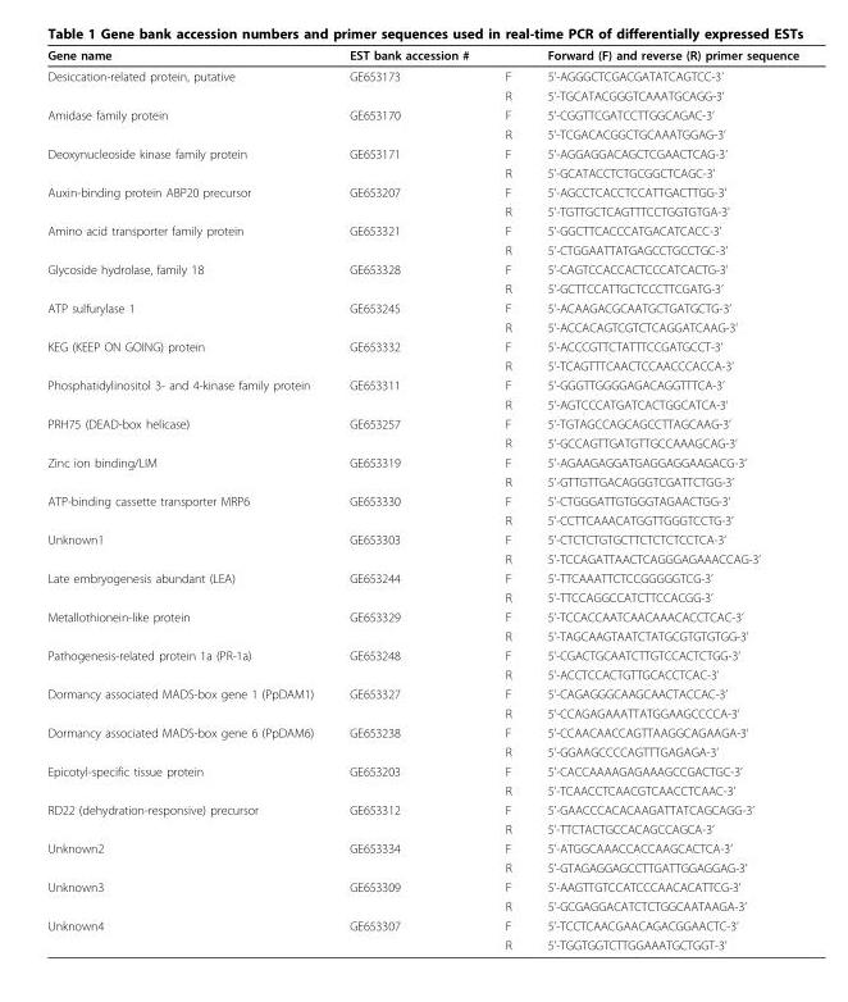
<table><thead><tr><td>Gene name</td><td>EST bank accession #</td><td></td><td>Forward (F) and reverse (R) primer sequence</td></tr></thead><tbody><tr><td rowspan="2">Desiccation-related protein, putative</td><td>GE653173</td><td>F</td><td>5’-AGGGCTCGACGATATCAGTCC-3’</td></tr><tr><td></td><td>R</td><td>5’-TGCATACGGGTCAAATGCAGG-3’</td></tr><tr><td rowspan="2">Amidase family protein</td><td>GE653170</td><td>F</td><td>5’-CGGTTCGATCCTTGGCAGAC-3’</td></tr><tr><td></td><td>R</td><td>5’-TCGACACGGCTGCAAATGGAG-3’</td></tr><tr><td rowspan="2">Deoxynucleoside kinase family protein</td><td>GE653171</td><td>F</td><td>5’-AGGAGGACAGCTCGAACTCAG-3’</td></tr><tr><td></td><td>R</td><td>5’-GCATACCTCTGCGGCTCAGC-3’</td></tr><tr><td rowspan="2">Auxin-binding protein ABP20 precursor</td><td>GE653207</td><td>F</td><td>5’-AGCCTCACCTCCATTGACTTGG-3’</td></tr><tr><td></td><td>R</td><td>5’-TGTTGCTCAGTTTCCTGGTGTGA-3’</td></tr><tr><td rowspan="2">Amino acid transporter family protein</td><td>GE653321</td><td>F</td><td>5’-GGCTTCACCCATGACATCACC-3’</td></tr><tr><td></td><td>R</td><td>5’-CTGGAATTATGAGCCTGCCTGC-3’</td></tr><tr><td rowspan="2">Glycoside hydrolase, family 18</td><td>GE653328</td><td>F</td><td>5’-CAGTCCACCACTCCCATCACTG-3’</td></tr><tr><td></td><td>R</td><td>5’-GCTTCCATTGCTCCCTTCGATG-3’</td></tr><tr><td rowspan="2">ATP sulfurylase 1</td><td>GE653245</td><td>F</td><td>5’-ACAAGACGCAATGCTGATGCTG-3’</td></tr><tr><td></td><td>R</td><td>5’-ACCACAGTCGTCTCAGGATCAAG-3’</td></tr><tr><td rowspan="2">KEG (KEEP ON GOING) protein</td><td>GE653332</td><td>F</td><td>5’-ACCCGTTCTATTTCCGATGCCT-3’</td></tr><tr><td></td><td>R</td><td>5’-TCAGTTTCAACTCCAACCCACCA-3’</td></tr><tr><td rowspan="2">Phosphatidylinositol 3- and 4-kinase family protein</td><td>GE653311</td><td>F</td><td>5’-GGGTTGGGGAGACAGGTTTCA-3’</td></tr><tr><td></td><td>R</td><td>5’-AGTCCCATGATCACTGGCATCA-3’</td></tr><tr><td rowspan="2">PRH75 (DEAD-box helicase)</td><td>GE653257</td><td>F</td><td>5’-TGTAGCCAGCAGCCTTAGCAAG-3’</td></tr><tr><td></td><td>R</td><td>5’-GCCAGTTGATGTTGCCAAAGCAG-3’</td></tr><tr><td rowspan="2">Zinc ion binding/LIM</td><td>GE653319</td><td>F</td><td>5’-AGAAGAGGATGAGGAGGAAGACG-3’</td></tr><tr><td></td><td>R</td><td>5’-GTTGTTGACAGGGTCGATTCTGG-3’</td></tr><tr><td rowspan="2">ATP-binding cassette transporter MRP6</td><td>GE653330</td><td>F</td><td>5’-CTGGGATTGTGGGTAGAACTGG-3’</td></tr><tr><td></td><td>R</td><td>5’-CCTTCAAACATGGTTGGGTCCTG-3’</td></tr><tr><td rowspan="2">Unknown1</td><td>GE653303</td><td>F</td><td>5’-CTCTCTGTGCTTCTCTCTCCTCA-3’</td></tr><tr><td></td><td>R</td><td>5’-TCCAGATTAACTCAGGGAGAAACCAG-3’</td></tr><tr><td rowspan="2">Late embryogenesis abundant (LEA)</td><td>GE653244</td><td>F</td><td>5’-TTCAAATTCTCCGGGGGTCG-3’</td></tr><tr><td></td><td>R</td><td>5’-TTCCAGGCCATCTTCCACGG-3’</td></tr><tr><td rowspan="2">Metallothionein-like protein</td><td>GE653329</td><td>F</td><td>5’-TCCACCAATCAACAAACACCTCAC-3’</td></tr><tr><td></td><td>R</td><td>5’-TAGCAAGTAATCTATGCGTGTGTGG-3’</td></tr><tr><td rowspan="2">Pathogenesis-related protein 1a (PR-1a)</td><td>GE653248</td><td>F</td><td>5’-CGACTGCAATCTTGTCCACTCTGG-3’</td></tr><tr><td></td><td>R</td><td>5’-ACCTCCACTGTTGCACCTCAC-3’</td></tr><tr><td rowspan="2">Dormancy associated MADS-box gene 1 (PpDAM1)</td><td>GE653327</td><td>F</td><td>5’-CAGAGGGCAAGCAACTACCAC-3’</td></tr><tr><td></td><td>R</td><td>5’-CCAGAGAAATTATGGAAGCCCCA-3’</td></tr><tr><td rowspan="2">Dormancy associated MADS-box gene 6 (PpDAM6)</td><td>GE653238</td><td>F</td><td>5’-CCAACAACCAGTTAAGGCAGAAGA-3’</td></tr><tr><td></td><td>R</td><td>5’-GGAAGCCCCAGTTTGAGAGA-3’</td></tr><tr><td rowspan="2">Epicotyl-specific tissue protein</td><td>GE653203</td><td>F</td><td>5’-CACCAAAAGAGAAAGCCGACTGC-3’</td></tr><tr><td></td><td>R</td><td>5’-TCAACCTCAACGTCAACCTCAAC-3’</td></tr><tr><td rowspan="2">RD22 (dehydration-responsive) precursor</td><td>GE653312</td><td>F</td><td>5’-GAACCCACACAAGATTATCAGCAGG-3’</td></tr><tr><td></td><td>R</td><td>5’-TTCTACTGCCACAGCCAGCA-3’</td></tr><tr><td rowspan="2">Unknown2</td><td>GE653334</td><td>F</td><td>5’-ATGGCAAACCACCAAGCACTCA-3’</td></tr><tr><td></td><td>R</td><td>5’-GTAGAGGAGCCTTGATTGGAGGAG-3’</td></tr><tr><td rowspan="2">Unknown3</td><td>GE653309</td><td>F</td><td>5’-AAGTTGTCCATCCCAACACATTCG-3’</td></tr><tr><td></td><td>R</td><td>5’-GCGAGGACATCTCTGGCAATAAGA-3’</td></tr><tr><td rowspan="2">Unknown4</td><td>GE653307</td><td>F</td><td>5’-TCCTCAACGAACAGACGGAACTC-3’</td></tr><tr><td></td><td>R</td><td>5’-TGGTGGTCTTGGAAATGCTGGT-3’</td></tr></tbody></table>